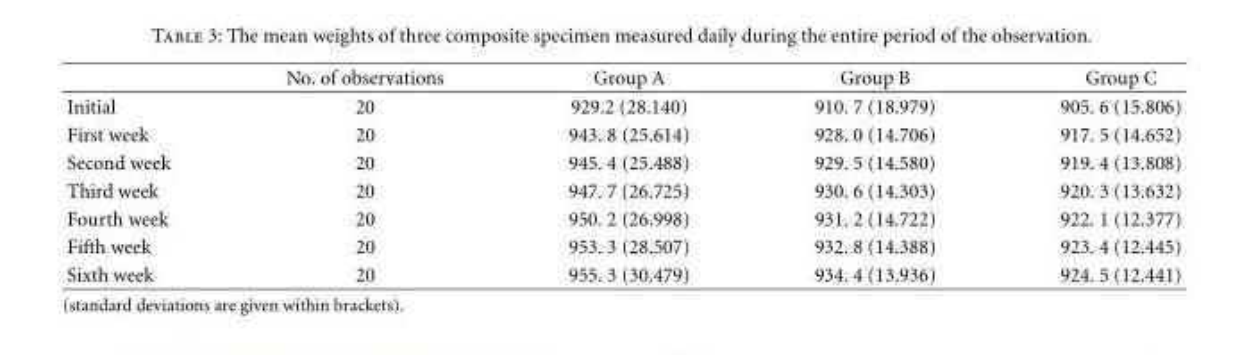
<table><thead><tr><td></td><td>No. of observations</td><td>Group A</td><td>Group B</td><td>Group C</td></tr></thead><tbody><tr><td>Initial</td><td>20</td><td>929.2 (28.140)</td><td>910. 7 (18.979)</td><td>905. 6 (15.806)</td></tr><tr><td>First week</td><td>20</td><td>943. 8 (25.614)</td><td>928. 0 (14.706)</td><td>917. 5 (14.652)</td></tr><tr><td>Second week</td><td>20</td><td>945. 4 (25.488)</td><td>929. 5 (14.580)</td><td>919. 4 (13.808)</td></tr><tr><td>Third week</td><td>20</td><td>947. 7 (26.725)</td><td>930. 6 (14.303)</td><td>920. 3 (13.632)</td></tr><tr><td>Fourth week</td><td>20</td><td>950. 2 (26.998)</td><td>931. 2 (14.722)</td><td>922. 1 (12.377)</td></tr><tr><td>Fifth week</td><td>20</td><td>953. 3 (28.507)</td><td>932. 8 (14.388)</td><td>923. 4 (12.445)</td></tr><tr><td>Sixth week</td><td>20</td><td>955. 3 (30.479)</td><td>934. 4 (13.936)</td><td>924. 5 (12.441)</td></tr></tbody></table>